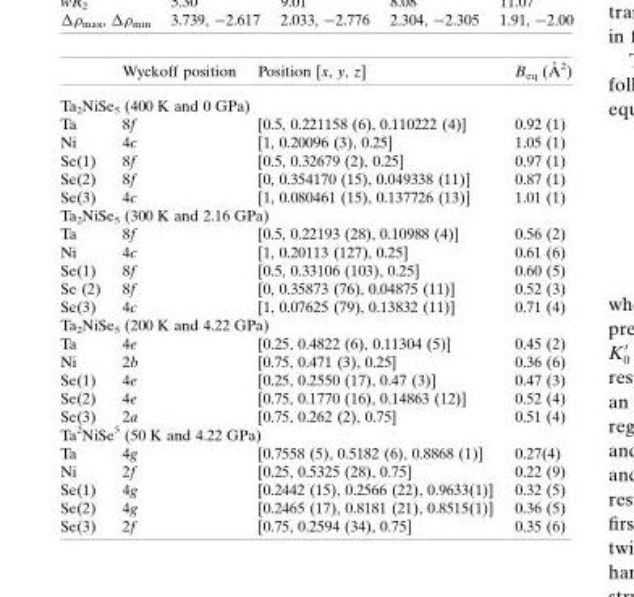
<table><thead><tr><td></td><td>Wyckoff position</td><td>Position [x, y, z]</td><td>Beq (A˚ 2)</td></tr></thead><tbody><tr><td colspan="4">Ta<sub>2</sub>NiSe<sub>5</sub> (400 K and 0 GPa)</td></tr><tr><td>Ta</td><td>8f</td><td>[0.5, 0.221158 (6), 0.110222 (4)]</td><td>0.92 (1)</td></tr><tr><td>Ni</td><td>4c</td><td>[1, 0.20096 (3), 0.25]</td><td>1.05 (1)</td></tr><tr><td>Se(1)</td><td>8f</td><td>[0.5, 0.32679 (2), 0.25]</td><td>0.97 (1)</td></tr><tr><td>Se(2)</td><td>8f</td><td>[0, 0.354170 (15), 0.049338 (11)]</td><td>0.87 (1)</td></tr><tr><td>Se(3)</td><td>4c</td><td>[1, 0.080461 (15), 0.137726 (13)]</td><td>1.01 (1)</td></tr><tr><td colspan="4">Ta<sub>2</sub>NiSe<sub>5</sub> (300 K and 2.16 GPa)</td></tr><tr><td>Ta</td><td>8f</td><td>[0.5, 0.22193 (28), 0.10988 (4)]</td><td>0.56 (2)</td></tr><tr><td>Ni</td><td>4c</td><td>[1, 0.20113 (127), 0.25]</td><td>0.61 (6)</td></tr><tr><td>Se(1)</td><td>8f</td><td>[0.5, 0.33106 (103), 0.25]</td><td>0.60 (5)</td></tr><tr><td>Se (2)</td><td>8f</td><td>[0, 0.35873 (76), 0.04875 (11)]</td><td>0.52 (3)</td></tr><tr><td>Se(3)</td><td>4c</td><td>[1, 0.07625 (79), 0.13832 (11)]</td><td>0.71 (4)</td></tr><tr><td colspan="4">Ta<sub>2</sub>NiSe<sub>5</sub> (200 K and 4.22 GPa)</td></tr><tr><td>Ta</td><td>4e</td><td>[0.25, 0.4822 (6), 0.11304 (5)]</td><td>0.45 (2)</td></tr><tr><td>Ni</td><td>2b</td><td>[0.75, 0.471 (3), 0.25]</td><td>0.36 (6)</td></tr><tr><td>Se(1)</td><td>4e</td><td>[0.25, 0.2550 (17), 0.47 (3)]</td><td>0.47 (3)</td></tr><tr><td>Se(2)</td><td>4e</td><td>[0.75, 0.1770 (16), 0.14863 (12)]</td><td>0.52 (4)</td></tr><tr><td>Se(3)</td><td>2a</td><td>[0.75, 0.262 (2), 0.75]</td><td>0.51 (4)</td></tr><tr><td colspan="4">Ta<sup>2</sup>NiSe<sup>5</sup> (50 K and 4.22 GPa)</td></tr><tr><td>Ta</td><td>4g</td><td>[0.7558 (5), 0.5182 (6), 0.8868 (1)]</td><td>0.27(4)</td></tr><tr><td>Ni</td><td>2f</td><td>[0.25, 0.5325 (28), 0.75]</td><td>0.22 (9)</td></tr><tr><td>Se(1)</td><td>4g</td><td>[0.2442 (15), 0.2566 (22), 0.9633(1)]</td><td>0.32 (5)</td></tr><tr><td>Se(2)</td><td>4g</td><td>[0.2465 (17), 0.8181 (21), 0.8515(1)]</td><td>0.36 (5)</td></tr><tr><td>Se(3)</td><td>2f</td><td>[0.75, 0.2594 (34), 0.75]</td><td>0.35 (6)</td></tr></tbody></table>